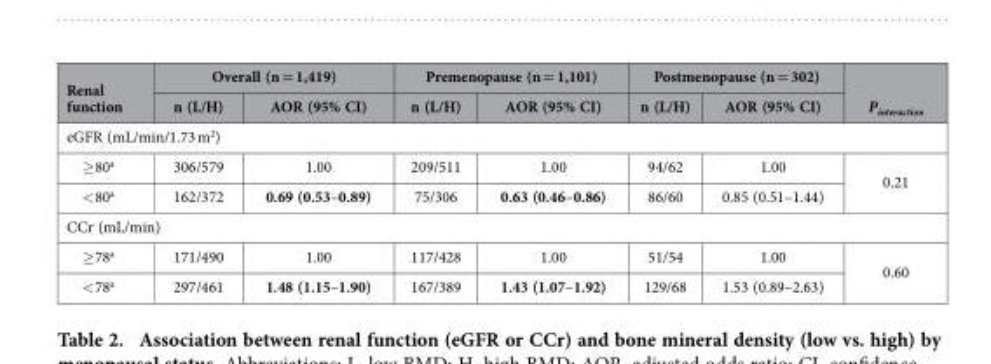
<table><thead><tr><td rowspan="2">Renal function</td><td colspan="2">Overall (n = 1,419)</td><td colspan="2">Premenopause (n = 1,101)</td><td colspan="2">Postmenopause (n = 302)</td><td rowspan="2">P<sub>interaction</sub></td></tr><tr><td>n (L/H)</td><td>AOR (95% CI)</td><td>n (L/H)</td><td>AOR (95% CI)</td><td>n (L/H)</td><td>AOR (95% CI)</td></tr></thead><tbody><tr><td colspan="8">eGFR (mL/min/1.73 m<sup>2</sup>)</td></tr><tr><td>≥ 80<sup>a</sup></td><td>306/579</td><td>1.00</td><td>209/511</td><td>1.00</td><td>94/62</td><td>1.00</td><td rowspan="2">0.21</td></tr><tr><td>&lt; 80<sup>a</sup></td><td>162/372</td><td>0.69 (0.53–0.89)</td><td>75/306</td><td>0.63 (0.46–0.86)</td><td>86/60</td><td>0.85 (0.51–1.44)</td></tr><tr><td colspan="8">CCr (mL/min)</td></tr><tr><td>≥ 78<sup>a</sup></td><td>171/490</td><td>1.00</td><td>117/428</td><td>1.00</td><td>51/54</td><td>1.00</td><td rowspan="2">0.60</td></tr><tr><td>&lt; 78<sup>a</sup></td><td>297/461</td><td>1.48 (1.15–1.90)</td><td>167/389</td><td>1.43 (1.07–1.92)</td><td>129/68</td><td>1.53 (0.89–2.63)</td></tr></tbody></table>